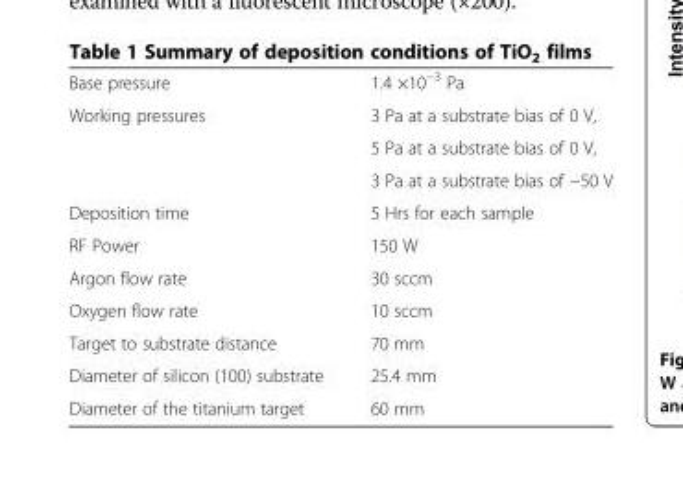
<table><tbody><tr><td>Base pressure</td><td>1.4 ×10<sup>−3</sup> Pa</td></tr><tr><td rowspan="3">Working pressures</td><td>3 Pa at a substrate bias of 0 V,</td></tr><tr><td>5 Pa at a substrate bias of 0 V,</td></tr><tr><td>3 Pa at a substrate bias of −50 V</td></tr><tr><td>Deposition time</td><td>5 Hrs for each sample</td></tr><tr><td>RF Power</td><td>150 W</td></tr><tr><td>Argon flow rate</td><td>30 sccm</td></tr><tr><td>Oxygen flow rate</td><td>10 sccm</td></tr><tr><td>Target to substrate distance</td><td>70 mm</td></tr><tr><td>Diameter of silicon (100) substrate</td><td>25.4 mm</td></tr><tr><td>Diameter of the titanium target</td><td>60 mm</td></tr></tbody></table>